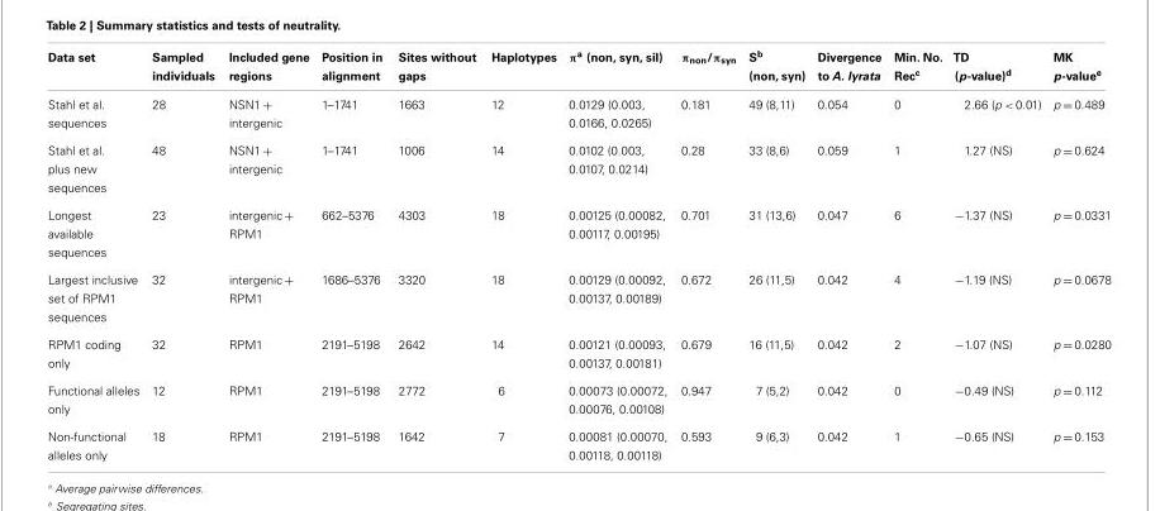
<table><thead><tr><td>Data set</td><td>Sampled individuals</td><td>Included gene regions</td><td>Position in alignment</td><td>Sites without gaps</td><td>Haplotypes</td><td>π<sup>a</sup> (non, syn, sil)</td><td>π<sub>non</sub>/π<sub>syn</sub></td><td>S<sup>b</sup> (non, syn)</td><td>Divergence to A. lyrata</td><td>Min. No. Rec<sup>c</sup></td><td>TD (p-value)<sup>d</sup></td><td>MK p-value<sup>e</sup></td></tr></thead><tbody><tr><td>Stahl et al. sequences</td><td>28</td><td>NSN1 + intergenic</td><td>1–1741</td><td>1663</td><td>12</td><td>0.0129 (0.003, 0.0166, 0.0265)</td><td>0.181</td><td>49 (8,11)</td><td>0.054</td><td>0</td><td>2.66 (p &lt; 0.01)</td><td>p = 0.489</td></tr><tr><td>Stahl et al. plus new sequences</td><td>48</td><td>NSN1 + intergenic</td><td>1–1741</td><td>1006</td><td>14</td><td>0.0102 (0.003, 0.0107, 0.0214)</td><td>0.28</td><td>33 (8,6)</td><td>0.059</td><td>1</td><td>1.27 (NS)</td><td>p = 0.624</td></tr><tr><td>Longest available sequences</td><td>23</td><td>intergenic + RPM1</td><td>662–5376</td><td>4303</td><td>18</td><td>0.00125 (0.00082, 0.00117, 0.00195)</td><td>0.701</td><td>31 (13,6)</td><td>0.047</td><td>6</td><td>−1.37 (NS)</td><td>p = 0.0331</td></tr><tr><td>Largest inclusive set of RPM1 sequences</td><td>32</td><td>intergenic + RPM1</td><td>1686–5376</td><td>3320</td><td>18</td><td>0.00129 (0.00092, 0.00137, 0.00189)</td><td>0.672</td><td>26 (11,5)</td><td>0.042</td><td>4</td><td>−1.19 (NS)</td><td>p = 0.0678</td></tr><tr><td>RPM1 coding only</td><td>32</td><td>RPM1</td><td>2191–5198</td><td>2642</td><td>14</td><td>0.00121 (0.00093, 0.00137, 0.00181)</td><td>0.679</td><td>16 (11,5)</td><td>0.042</td><td>2</td><td>−1.07 (NS)</td><td>p = 0.0280</td></tr><tr><td>Functional alleles only</td><td>12</td><td>RPM1</td><td>2191–5198</td><td>2772</td><td>6</td><td>0.00073 (0.00072, 0.00076, 0.00108)</td><td>0.947</td><td>7 (5,2)</td><td>0.042</td><td>0</td><td>−0.49 (NS)</td><td>p = 0.112</td></tr><tr><td>Non-functional alleles only</td><td>18</td><td>RPM1</td><td>2191–5198</td><td>1642</td><td>7</td><td>0.00081 (0.00070, 0.00118, 0.00118)</td><td>0.593</td><td>9 (6,3)</td><td>0.042</td><td>1</td><td>−0.65 (NS)</td><td>p = 0.153</td></tr></tbody></table>